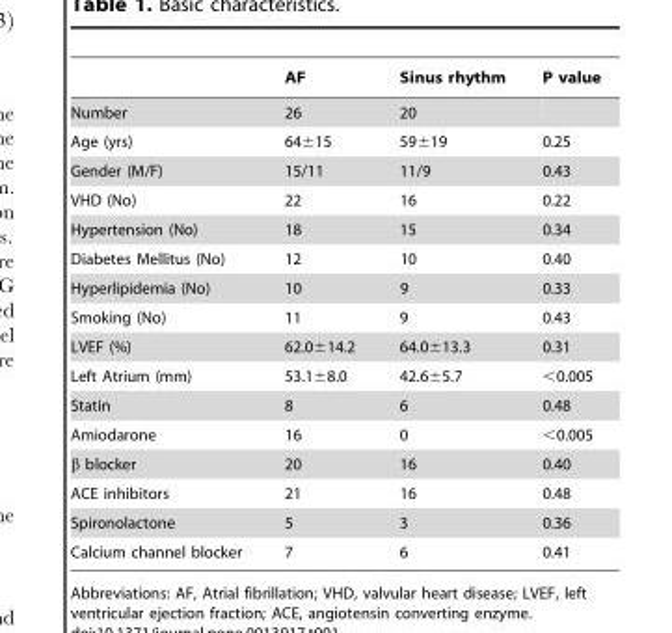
<table><thead><tr><td></td><td>AF</td><td>Sinus rhythm</td><td>P value</td></tr></thead><tbody><tr><td>Number</td><td>26</td><td>20</td><td></td></tr><tr><td>Age (yrs)</td><td>64±15</td><td>59±19</td><td>0.25</td></tr><tr><td>Gender (M/F)</td><td>15/11</td><td>11/9</td><td>0.43</td></tr><tr><td>VHD (No)</td><td>22</td><td>16</td><td>0.22</td></tr><tr><td>Hypertension (No)</td><td>18</td><td>15</td><td>0.34</td></tr><tr><td>Diabetes Mellitus (No)</td><td>12</td><td>10</td><td>0.40</td></tr><tr><td>Hyperlipidemia (No)</td><td>10</td><td>9</td><td>0.33</td></tr><tr><td>Smoking (No)</td><td>11</td><td>9</td><td>0.43</td></tr><tr><td>LVEF (%)</td><td>62.0±14.2</td><td>64.0±13.3</td><td>0.31</td></tr><tr><td>Left Atrium (mm)</td><td>53.1±8.0</td><td>42.6±5.7</td><td>&lt;0.005</td></tr><tr><td>Statin</td><td>8</td><td>6</td><td>0.48</td></tr><tr><td>Amiodarone</td><td>16</td><td>0</td><td>&lt;0.005</td></tr><tr><td>β blocker</td><td>20</td><td>16</td><td>0.40</td></tr><tr><td>ACE inhibitors</td><td>21</td><td>16</td><td>0.48</td></tr><tr><td>Spironolactone</td><td>5</td><td>3</td><td>0.36</td></tr><tr><td>Calcium channel blocker</td><td>7</td><td>6</td><td>0.41</td></tr></tbody></table>